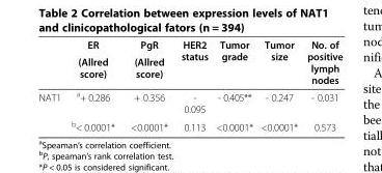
<table><thead><tr><td rowspan="2"></td><td rowspan="2">ER (Allred score)</td><td rowspan="2">PgR (Allred score)</td><td rowspan="2">HER2 status</td><td rowspan="2">Tumor grade</td><td rowspan="2">Tumor size</td><td rowspan="2">No. of positive lymph nodes</td></tr><tr></tr></thead><tbody><tr><td rowspan="2">NAT1</td><td><sup>a</sup>+ 0.286</td><td>+ 0.356</td><td>- 0.095</td><td>- 0.405**</td><td>- 0.247</td><td>- 0.031</td></tr><tr><td><sup>b</sup>&lt; 0.0001*</td><td>&lt;0.0001*</td><td>0.113</td><td>&lt;0.0001*</td><td>&lt;0.0001*</td><td>0.573</td></tr></tbody></table>